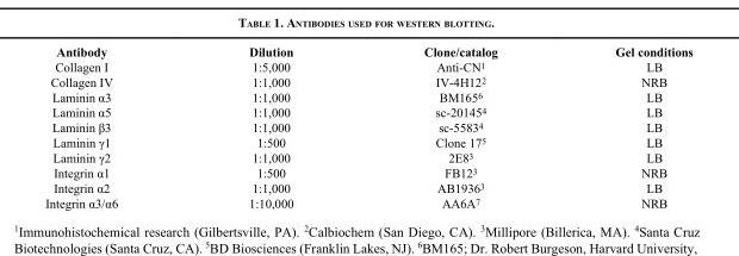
<table><thead><tr><td>Antibody</td><td>Dilution</td><td>Clone/catalog</td><td>Gel conditions</td></tr></thead><tbody><tr><td>Collagen I</td><td>1:5,000</td><td>Anti-CN<sup>1</sup></td><td>LB</td></tr><tr><td>Collagen IV</td><td>1:1,000</td><td>IV-4H12<sup>2</sup></td><td>NRB</td></tr><tr><td>Laminin α3</td><td>1:1,000</td><td>BM165<sup>6</sup></td><td>LB</td></tr><tr><td>Laminin α5</td><td>1:1,000</td><td>sc-20145<sup>4</sup></td><td>LB</td></tr><tr><td>Laminin β3</td><td>1:1,000</td><td>sc-5583<sup>4</sup></td><td>LB</td></tr><tr><td>Laminin γ1</td><td>1:500</td><td>Clone 17<sup>5</sup></td><td>LB</td></tr><tr><td>Laminin γ2</td><td>1:1,000</td><td>2E8<sup>3</sup></td><td>LB</td></tr><tr><td>Integrin α1</td><td>1:500</td><td>FB12<sup>3</sup></td><td>NRB</td></tr><tr><td>Integrin α2</td><td>1:1,000</td><td>AB1936<sup>3</sup></td><td>LB</td></tr><tr><td>Integrin α3/α6</td><td>1:10,000</td><td>AA6A<sup>7</sup></td><td>NRB</td></tr></tbody></table>